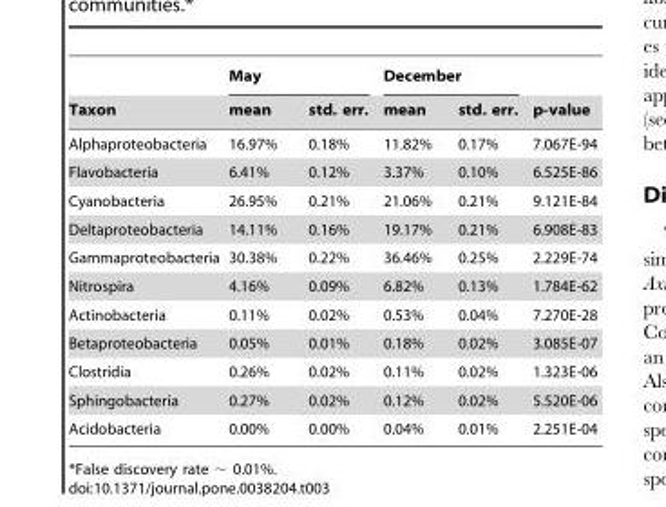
<table><thead><tr><td rowspan="2">Taxon</td><td colspan="2">May</td><td colspan="2">December</td><td rowspan="2">p-value</td></tr><tr><td>mean</td><td>std. err.</td><td>mean</td><td>std. err.</td></tr></thead><tbody><tr><td>Alphaproteobacteria</td><td>16.97%</td><td>0.18%</td><td>11.82%</td><td>0.17%</td><td>7.067E-94</td></tr><tr><td>Flavobacteria</td><td>6.41%</td><td>0.12%</td><td>3.37%</td><td>0.10%</td><td>6.525E-86</td></tr><tr><td>Cyanobacteria</td><td>26.95%</td><td>0.21%</td><td>21.06%</td><td>0.21%</td><td>9.121E-84</td></tr><tr><td>Deltaproteobacteria</td><td>14.11%</td><td>0.16%</td><td>19.17%</td><td>0.21%</td><td>6.908E-83</td></tr><tr><td>Gammaproteobacteria</td><td>30.38%</td><td>0.22%</td><td>36.46%</td><td>0.25%</td><td>2.229E-74</td></tr><tr><td>Nitrospira</td><td>4.16%</td><td>0.09%</td><td>6.82%</td><td>0.13%</td><td>1.784E-62</td></tr><tr><td>Actinobacteria</td><td>0.11%</td><td>0.02%</td><td>0.53%</td><td>0.04%</td><td>7.270E-28</td></tr><tr><td>Betaproteobacteria</td><td>0.05%</td><td>0.01%</td><td>0.18%</td><td>0.02%</td><td>3.085E-07</td></tr><tr><td>Clostridia</td><td>0.26%</td><td>0.02%</td><td>0.11%</td><td>0.02%</td><td>1.323E-06</td></tr><tr><td>Sphingobacteria</td><td>0.27%</td><td>0.02%</td><td>0.12%</td><td>0.02%</td><td>5.520E-06</td></tr><tr><td>Acidobacteria</td><td>0.00%</td><td>0.00%</td><td>0.04%</td><td>0.01%</td><td>2.251E-04</td></tr></tbody></table>